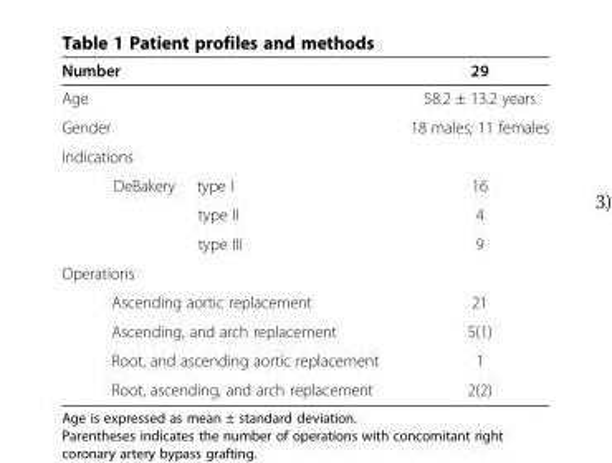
<table><thead><tr><td>Number</td><td>29</td></tr></thead><tbody><tr><td>Age</td><td>58.2 ± 13.2 years</td></tr><tr><td>Gender</td><td>18 males; 11 females</td></tr><tr><td colspan="2">Indications</td></tr><tr><td>DeBakery type I</td><td>16</td></tr><tr><td>type II</td><td>4</td></tr><tr><td>type III</td><td>9</td></tr><tr><td colspan="2">Operations</td></tr><tr><td>Ascending aortic replacement</td><td>21</td></tr><tr><td>Ascending, and arch replacement</td><td>5(1)</td></tr><tr><td>Root, and ascending aortic replacement</td><td>1</td></tr><tr><td>Root, ascending, and arch replacement</td><td>2(2)</td></tr></tbody></table>